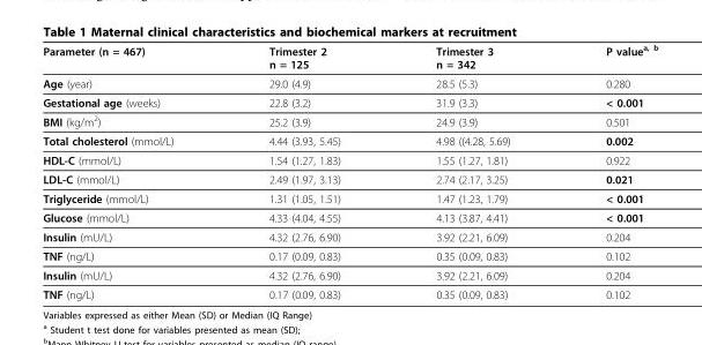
<table><thead><tr><td>Parameter (n = 467)</td><td>Trimester 2 n = 125</td><td>Trimester 3 n = 342</td><td>P value<sup>a, b</sup></td></tr></thead><tbody><tr><td>Age (year)</td><td>29.0 (4.9)</td><td>28.5 (5.3)</td><td>0.280</td></tr><tr><td>Gestational age (weeks)</td><td>22.8 (3.2)</td><td>31.9 (3.3)</td><td>&lt; 0.001</td></tr><tr><td>BMI (kg/m<sup>2</sup>)</td><td>25.2 (3.9)</td><td>24.9 (3.9)</td><td>0.501</td></tr><tr><td>Total cholesterol (mmol/L)</td><td>4.44 (3.93, 5.45)</td><td>4.98 ((4.28, 5.69)</td><td>0.002</td></tr><tr><td>HDL-C (mmol/L)</td><td>1.54 (1.27, 1.83)</td><td>1.55 (1.27, 1.81)</td><td>0.922</td></tr><tr><td>LDL-C (mmol/L)</td><td>2.49 (1.97, 3.13)</td><td>2.74 (2.17, 3.25)</td><td>0.021</td></tr><tr><td>Triglyceride (mmol/L)</td><td>1.31 (1.05, 1.51)</td><td>1.47 (1.23, 1.79)</td><td>&lt; 0.001</td></tr><tr><td>Glucose (mmol/L)</td><td>4.33 (4.04, 4.55)</td><td>4.13 (3.87, 4.41)</td><td>&lt; 0.001</td></tr><tr><td>Insulin (mU/L)</td><td>4.32 (2.76, 6.90)</td><td>3.92 (2.21, 6.09)</td><td>0.204</td></tr><tr><td>TNF (ng/L)</td><td>0.17 (0.09, 0.83)</td><td>0.35 (0.09, 0.83)</td><td>0.102</td></tr><tr><td>Insulin (mU/L)</td><td>4.32 (2.76, 6.90)</td><td>3.92 (2.21, 6.09)</td><td>0.204</td></tr><tr><td>TNF (ng/L)</td><td>0.17 (0.09, 0.83)</td><td>0.35 (0.09, 0.83)</td><td>0.102</td></tr></tbody></table>